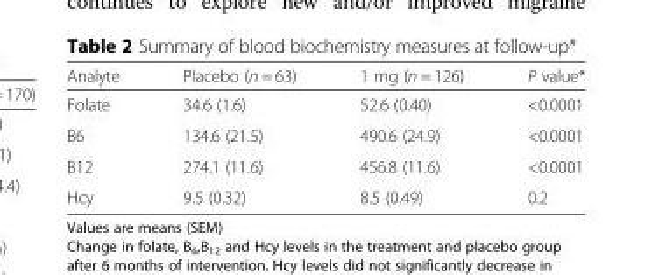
<table><thead><tr><td>Analyte</td><td>Placebo (n = 63)</td><td>1 mg (n = 126)</td><td>P value*</td></tr></thead><tbody><tr><td>Folate</td><td>34.6 (1.6)</td><td>52.6 (0.40)</td><td>&lt;0.0001</td></tr><tr><td>B6</td><td>134.6 (21.5)</td><td>490.6 (24.9)</td><td>&lt;0.0001</td></tr><tr><td>B12</td><td>274.1 (11.6)</td><td>456.8 (11.6)</td><td>&lt;0.0001</td></tr><tr><td>Hcy</td><td>9.5 (0.32)</td><td>8.5 (0.49)</td><td>0.2</td></tr></tbody></table>